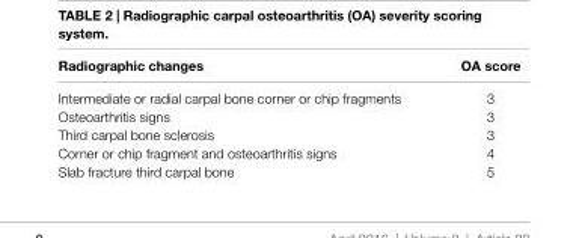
<table><thead><tr><td>radiographic changes</td><td>Oa score</td></tr></thead><tbody><tr><td>Intermediate or radial carpal bone corner or chip fragments</td><td>3</td></tr><tr><td>Osteoarthritis signs</td><td>3</td></tr><tr><td>Third carpal bone sclerosis</td><td>3</td></tr><tr><td>Corner or chip fragment and osteoarthritis signs</td><td>4</td></tr><tr><td>Slab fracture third carpal bone</td><td>5</td></tr></tbody></table>